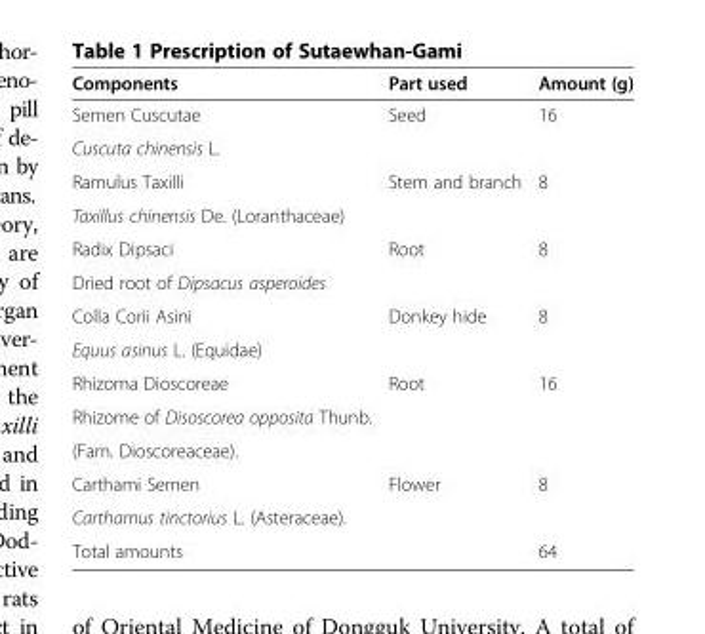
<table><thead><tr><td>Components</td><td>Part used</td><td>Amount (g)</td></tr></thead><tbody><tr><td>Semen Cuscutae</td><td rowspan="2">Seed</td><td rowspan="2">16</td></tr><tr><td>Cuscuta chinensis L.</td></tr><tr><td>Ramulus Taxilli</td><td rowspan="2">Stem and branch</td><td rowspan="2">8</td></tr><tr><td>Taxillus chinensis De. (Loranthaceae)</td></tr><tr><td>Radix Dipsaci</td><td rowspan="2">Root</td><td rowspan="2">8</td></tr><tr><td>Dried root of Dipsacus asperoides</td></tr><tr><td>Colla Corii Asini</td><td rowspan="2">Donkey hide</td><td rowspan="2">8</td></tr><tr><td>Equus asinus L. (Equidae)</td></tr><tr><td>Rhizoma Dioscoreae</td><td rowspan="3">Root</td><td rowspan="3">16</td></tr><tr><td>Rhizome of Disoscorea opposita Thunb.</td></tr><tr><td>(Fam. Dioscoreaceae).</td></tr><tr><td>Carthami Semen</td><td rowspan="2">Flower</td><td rowspan="2">8</td></tr><tr><td>Carthamus tinctorius L. (Asteraceae).</td></tr><tr><td>Total amounts</td><td></td><td>64</td></tr></tbody></table>